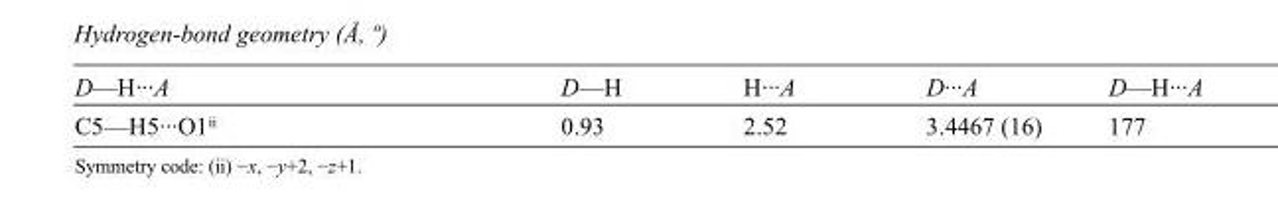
<table><tbody><tr><td>D—H···A</td><td>D—H</td><td>H···A</td><td>D···A</td><td>D—H···A</td></tr><tr><td>C5—H5···O1<sup>ii</sup></td><td>0.93</td><td>2.52</td><td>3.4467 (16)</td><td>177</td></tr></tbody></table>